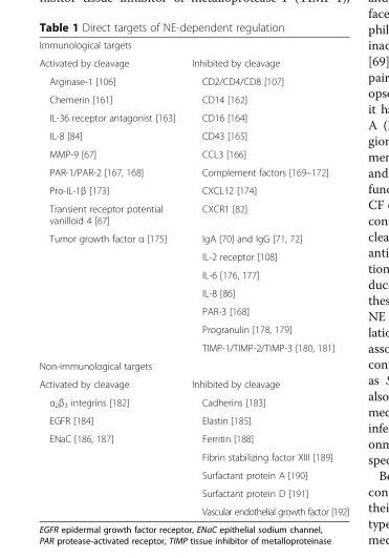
<table><tbody><tr><td colspan="2">Immunological targets</td></tr><tr><td>Activated by cleavage</td><td>Inhibited by cleavage</td></tr><tr><td>Arginase-1 [106]</td><td>CD2/CD4/CD8 [107]</td></tr><tr><td>Chemerin [161]</td><td>CD14 [162]</td></tr><tr><td>IL-36 receptor antagonist [163]</td><td>CD16 [164]</td></tr><tr><td>IL-8 [84]</td><td>CD43 [165]</td></tr><tr><td>MMP-9 [67]</td><td>CCL3 [166]</td></tr><tr><td>PAR-1/PAR-2 [167, 168]</td><td>Complement factors [169–172]</td></tr><tr><td>Pro-IL-1β [173]</td><td>CXCL12 [174]</td></tr><tr><td>Transient receptor potential vanilloid 4 [67]</td><td>CXCR1 [82]</td></tr><tr><td rowspan="7">Tumor growth factor α [175]</td><td>IgA [70] and IgG [71, 72]</td></tr><tr><td>IL-2 receptor [108]</td></tr><tr><td>IL-6 [176, 177]</td></tr><tr><td>IL-8 [86]</td></tr><tr><td>PAR-3 [168]</td></tr><tr><td>Progranulin [178, 179]</td></tr><tr><td>TIMP-1/TIMP-2/TIMP-3 [180, 181]</td></tr><tr><td colspan="2">Non-immunological targets</td></tr><tr><td>Activated by cleavage</td><td>Inhibited by cleavage</td></tr><tr><td>α<sub>2</sub>β<sub>3</sub> integrins [182]</td><td>Cadherins [183]</td></tr><tr><td>EGFR [184]</td><td>Elastin [185]</td></tr><tr><td rowspan="5">ENaC [186, 187]</td><td>Ferritin [188]</td></tr><tr><td>Fibrin stabilizing factor XIII [189]</td></tr><tr><td>Surfactant protein A [190]</td></tr><tr><td>Surfactant protein D [191]</td></tr><tr><td>Vascular endothelial growth factor [192]</td></tr></tbody></table>